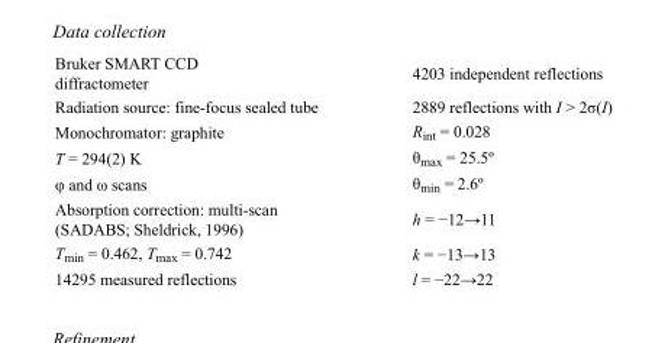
<table><tbody><tr><td>Bruker SMART CCD diffractometer</td><td>4203 independent reflections</td></tr><tr><td>Radiation source: fine-focus sealed tube</td><td>2889 reflections with I &gt; 2σ(I)</td></tr><tr><td>Monochromator: graphite</td><td>R<sub>int</sub> = 0.028</td></tr><tr><td>T = 294(2) K</td><td>θ<sub>max</sub> = 25.5º</td></tr><tr><td>φ and ω scans</td><td>θ<sub>min</sub> = 2.6º</td></tr><tr><td>Absorption correction: multi-scan (SADABS; Sheldrick, 1996)</td><td>h = −12→11</td></tr><tr><td>T<sub>min</sub> = 0.462, T<sub>max</sub> = 0.742</td><td>k = −13→13</td></tr><tr><td>14295 measured reflections</td><td>l = −22→22</td></tr></tbody></table>